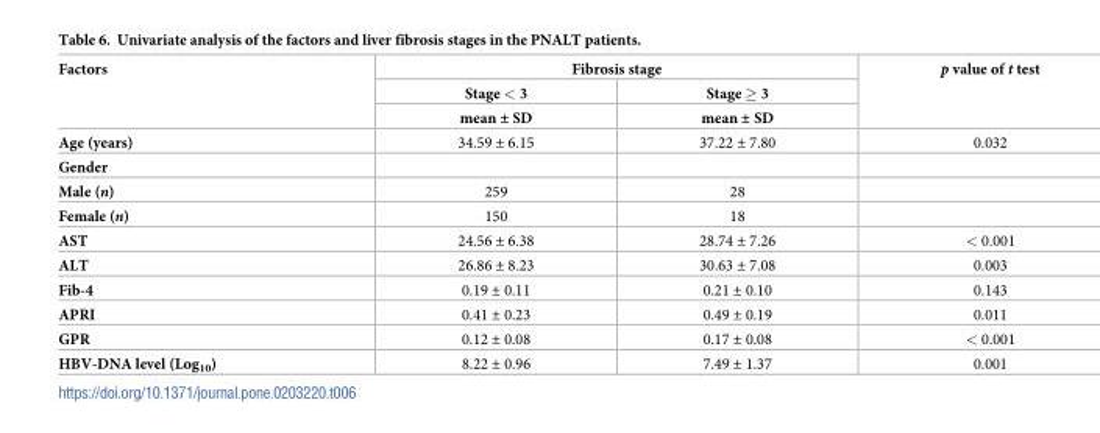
<table><thead><tr><td rowspan="3">Factors</td><td colspan="2">Fibrosis stage</td><td rowspan="3">p value of t test</td></tr><tr><td rowspan="2">Stage &lt; 3 mean ± SD</td><td rowspan="2">Stage ≥ 3 mean ± SD</td></tr><tr></tr></thead><tbody><tr><td>Age (years)</td><td>34.59 ± 6.15</td><td>37.22 ± 7.80</td><td>0.032</td></tr><tr><td colspan="4">Gender</td></tr><tr><td>Male (n)</td><td>259</td><td>28</td><td></td></tr><tr><td>Female (n)</td><td>150</td><td>18</td><td></td></tr><tr><td>AST</td><td>24.56 ± 6.38</td><td>28.74 ± 7.26</td><td>&lt; 0.001</td></tr><tr><td>ALT</td><td>26.86 ± 8.23</td><td>30.63 ± 7.08</td><td>0.003</td></tr><tr><td>Fib-4</td><td>0.19 ± 0.11</td><td>0.21 ± 0.10</td><td>0.143</td></tr><tr><td>APRI</td><td>0.41 ± 0.23</td><td>0.49 ± 0.19</td><td>0.011</td></tr><tr><td>GPR</td><td>0.12 ± 0.08</td><td>0.17 ± 0.08</td><td>&lt; 0.001</td></tr><tr><td>HBV-DNA level (Log<sub>10</sub>)</td><td>8.22 ± 0.96</td><td>7.49 ± 1.37</td><td>0.001</td></tr></tbody></table>